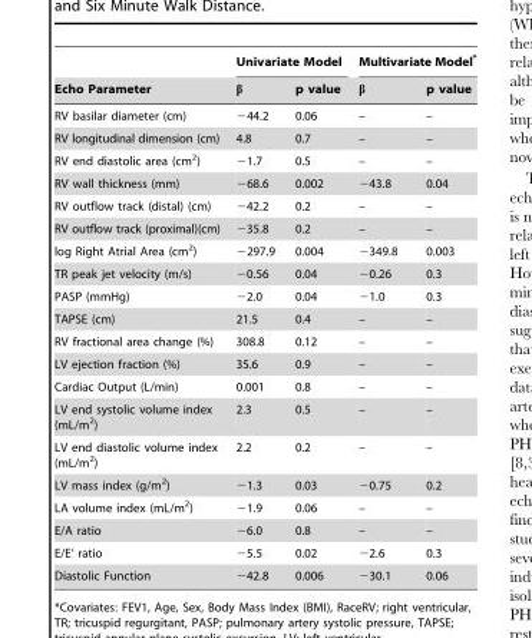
<table><thead><tr><td rowspan="2">Echo Parameter</td><td colspan="2">Univariate Model</td><td colspan="2">Multivariate Model*</td></tr><tr><td>β</td><td>p value</td><td>β</td><td>p value</td></tr></thead><tbody><tr><td>RV basilar diameter (cm)</td><td>−44.2</td><td>0.06</td><td>–</td><td>–</td></tr><tr><td>RV longitudinal dimension (cm)</td><td>4.8</td><td>0.7</td><td>–</td><td>–</td></tr><tr><td>RV end diastolic area (cm<sup>2</sup>)</td><td>−1.7</td><td>0.5</td><td>–</td><td>–</td></tr><tr><td>RV wall thickness (mm)</td><td>−68.6</td><td>0.002</td><td>−43.8</td><td>0.04</td></tr><tr><td>RV outflow track (distal) (cm)</td><td>−42.2</td><td>0.2</td><td>–</td><td>–</td></tr><tr><td>RV outflow track (proximal)(cm)</td><td>−35.8</td><td>0.2</td><td>–</td><td>–</td></tr><tr><td>log Right Atrial Area (cm<sup>2</sup>)</td><td>−297.9</td><td>0.004</td><td>−349.8</td><td>0.003</td></tr><tr><td>TR peak jet velocity (m/s)</td><td>−0.56</td><td>0.04</td><td>−0.26</td><td>0.3</td></tr><tr><td>PASP (mmHg)</td><td>−2.0</td><td>0.04</td><td>−1.0</td><td>0.3</td></tr><tr><td>TAPSE (cm)</td><td>21.5</td><td>0.4</td><td>–</td><td>–</td></tr><tr><td>RV fractional area change (%)</td><td>308.8</td><td>0.12</td><td>–</td><td>–</td></tr><tr><td>LV ejection fraction (%)</td><td>35.6</td><td>0.9</td><td>–</td><td>–</td></tr><tr><td>Cardiac Output (L/min)</td><td>0.001</td><td>0.8</td><td>–</td><td>–</td></tr><tr><td>LV end systolic volume index (mL/m<sup>2</sup>)</td><td>2.3</td><td>0.5</td><td>–</td><td>–</td></tr><tr><td>LV end diastolic volume index (mL/m<sup>2</sup>)</td><td>2.2</td><td>0.2</td><td>–</td><td>–</td></tr><tr><td>LV mass index (g/m<sup>2</sup>)</td><td>−1.3</td><td>0.03</td><td>−0.75</td><td>0.2</td></tr><tr><td>LA volume index (mL/m<sup>2</sup>)</td><td>−1.9</td><td>0.06</td><td>–</td><td>–</td></tr><tr><td>E/A ratio</td><td>−6.0</td><td>0.8</td><td>–</td><td>–</td></tr><tr><td>E/E’ ratio</td><td>−5.5</td><td>0.02</td><td>−2.6</td><td>0.3</td></tr><tr><td>Diastolic Function</td><td>−42.8</td><td>0.006</td><td>−30.1</td><td>0.06</td></tr></tbody></table>